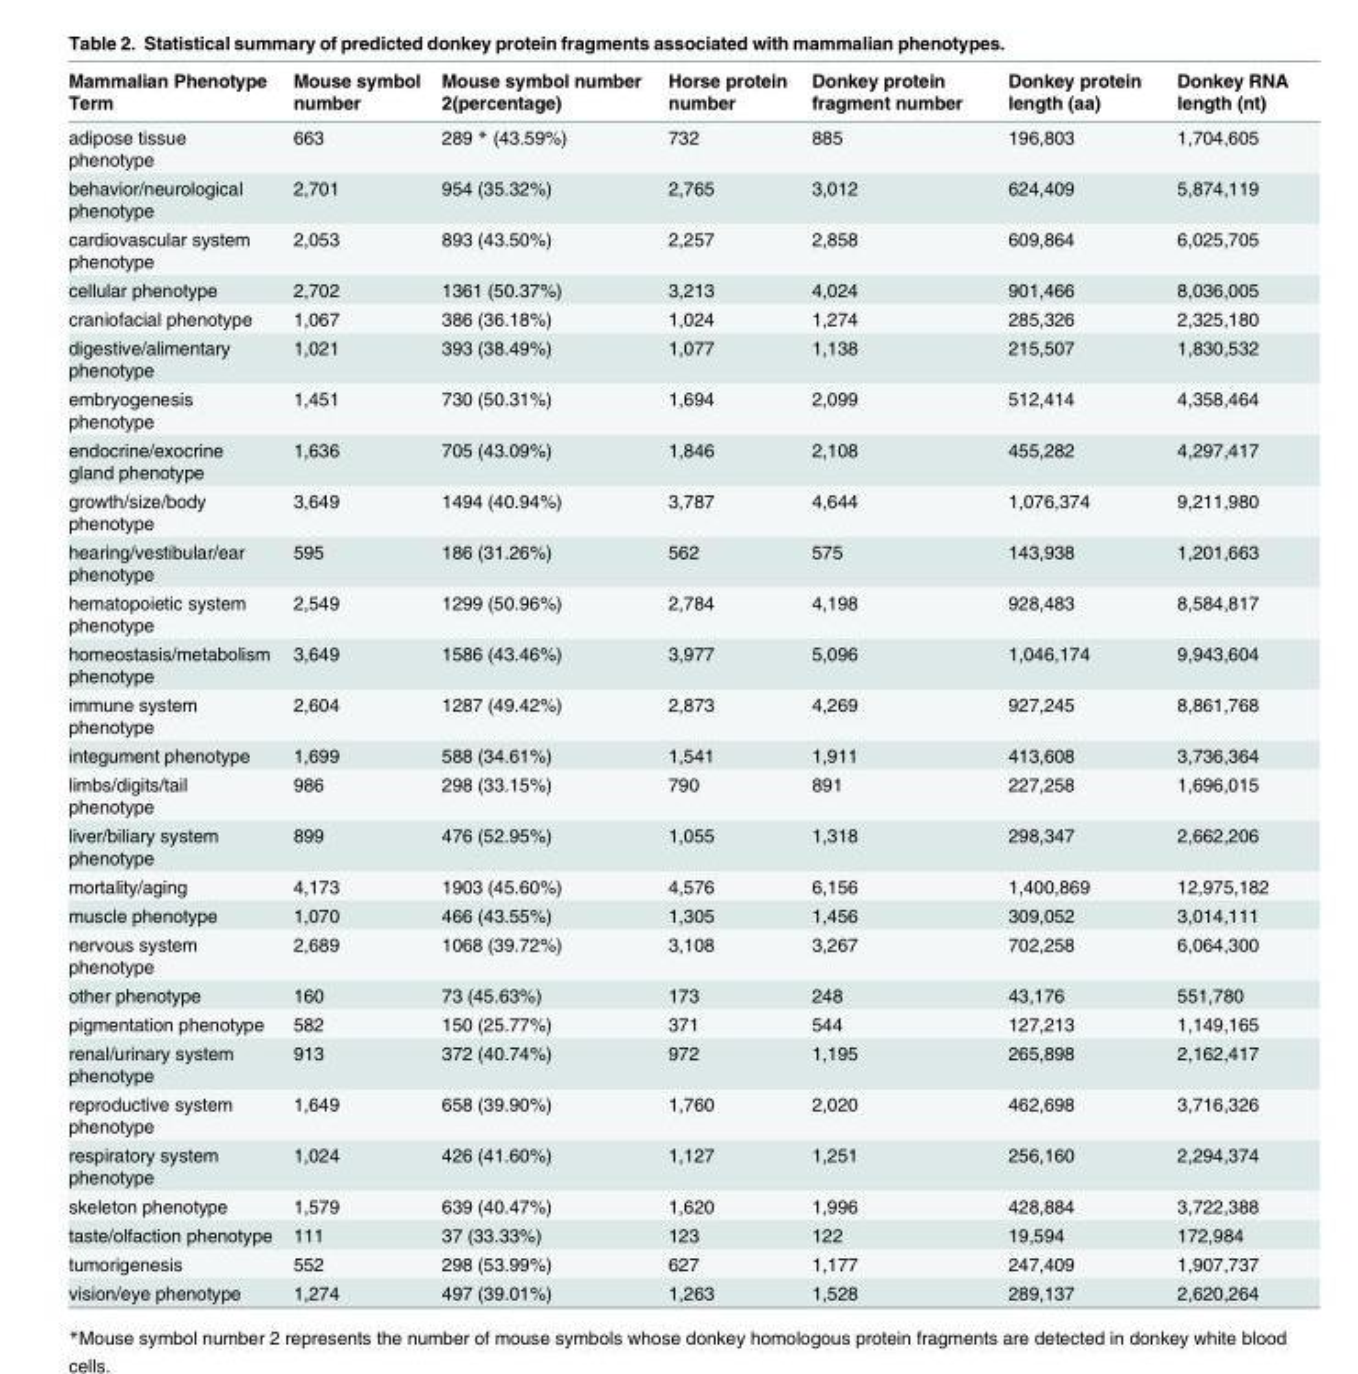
<table><thead><tr><td>Mammalian Phenotype Term</td><td>Mouse symbol number</td><td>Mouse symbol number 2(percentage)</td><td>Horse protein number</td><td>Donkey protein fragment number</td><td>Donkey protein length (aa)</td><td>Donkey RNA length (nt)</td></tr></thead><tbody><tr><td>adipose tissue phenotype</td><td>663</td><td>289 * (43.59%)</td><td>732</td><td>885</td><td>196,803</td><td>1,704,605</td></tr><tr><td>behavior/neurological phenotype</td><td>2,701</td><td>954 (35.32%)</td><td>2,765</td><td>3,012</td><td>624,409</td><td>5,874,119</td></tr><tr><td>cardiovascular system phenotype</td><td>2,053</td><td>893 (43.50%)</td><td>2,257</td><td>2,858</td><td>609,864</td><td>6,025,705</td></tr><tr><td>cellular phenotype</td><td>2,702</td><td>1361 (50.37%)</td><td>3,213</td><td>4,024</td><td>901,466</td><td>8,036,005</td></tr><tr><td>craniofacial phenotype</td><td>1,067</td><td>386 (36.18%)</td><td>1,024</td><td>1,274</td><td>285,326</td><td>2,325,180</td></tr><tr><td>digestive/alimentary phenotype</td><td>1,021</td><td>393 (38.49%)</td><td>1,077</td><td>1,138</td><td>215,507</td><td>1,830,532</td></tr><tr><td>embryogenesis phenotype</td><td>1,451</td><td>730 (50.31%)</td><td>1,694</td><td>2,099</td><td>512,414</td><td>4,358,464</td></tr><tr><td>endocrine/exocrine gland phenotype</td><td>1,636</td><td>705 (43.09%)</td><td>1,846</td><td>2,108</td><td>455,282</td><td>4,297,417</td></tr><tr><td>growth/size/body phenotype</td><td>3,649</td><td>1494 (40.94%)</td><td>3,787</td><td>4,644</td><td>1,076,374</td><td>9,211,980</td></tr><tr><td>hearing/vestibular/ear phenotype</td><td>595</td><td>186 (31.26%)</td><td>562</td><td>575</td><td>143,938</td><td>1,201,663</td></tr><tr><td>hematopoietic system phenotype</td><td>2,549</td><td>1299 (50.96%)</td><td>2,784</td><td>4,198</td><td>928,483</td><td>8,584,817</td></tr><tr><td>homeostasis/metabolism phenotype</td><td>3,649</td><td>1586 (43.46%)</td><td>3,977</td><td>5,096</td><td>1,046,174</td><td>9,943,604</td></tr><tr><td>immune system phenotype</td><td>2,604</td><td>1287 (49.42%)</td><td>2,873</td><td>4,269</td><td>927,245</td><td>8,861,768</td></tr><tr><td>integument phenotype</td><td>1,699</td><td>588 (34.61%)</td><td>1,541</td><td>1,911</td><td>413,608</td><td>3,736,364</td></tr><tr><td>limbs/digits/tail phenotype</td><td>986</td><td>298 (33.15%)</td><td>790</td><td>891</td><td>227,258</td><td>1,696,015</td></tr><tr><td>liver/biliary system phenotype</td><td>899</td><td>476 (52.95%)</td><td>1,055</td><td>1,318</td><td>298,347</td><td>2,662,206</td></tr><tr><td>mortality/aging</td><td>4,173</td><td>1903 (45.60%)</td><td>4,576</td><td>6,156</td><td>1,400,869</td><td>12,975,182</td></tr><tr><td>muscle phenotype</td><td>1,070</td><td>466 (43.55%)</td><td>1,305</td><td>1,456</td><td>309,052</td><td>3,014,111</td></tr><tr><td>nervous system phenotype</td><td>2,689</td><td>1068 (39.72%)</td><td>3,108</td><td>3,267</td><td>702,258</td><td>6,064,300</td></tr><tr><td>other phenotype</td><td>160</td><td>73 (45.63%)</td><td>173</td><td>248</td><td>43,176</td><td>551,780</td></tr><tr><td>pigmentation phenotype</td><td>582</td><td>150 (25.77%)</td><td>371</td><td>544</td><td>127,213</td><td>1,149,165</td></tr><tr><td>renal/urinary system phenotype</td><td>913</td><td>372 (40.74%)</td><td>972</td><td>1,195</td><td>265,898</td><td>2,162,417</td></tr><tr><td>reproductive system phenotype</td><td>1,649</td><td>658 (39.90%)</td><td>1,760</td><td>2,020</td><td>462,698</td><td>3,716,326</td></tr><tr><td>respiratory system phenotype</td><td>1,024</td><td>426 (41.60%)</td><td>1,127</td><td>1,251</td><td>256,160</td><td>2,294,374</td></tr><tr><td>skeleton phenotype</td><td>1,579</td><td>639 (40.47%)</td><td>1,620</td><td>1,996</td><td>428,884</td><td>3,722,388</td></tr><tr><td>taste/olfaction phenotype</td><td>111</td><td>37 (33.33%)</td><td>123</td><td>122</td><td>19,594</td><td>172,984</td></tr><tr><td>tumorigenesis</td><td>552</td><td>298 (53.99%)</td><td>627</td><td>1,177</td><td>247,409</td><td>1,907,737</td></tr><tr><td>vision/eye phenotype</td><td>1,274</td><td>497 (39.01%)</td><td>1,263</td><td>1,528</td><td>289,137</td><td>2,620,264</td></tr></tbody></table>